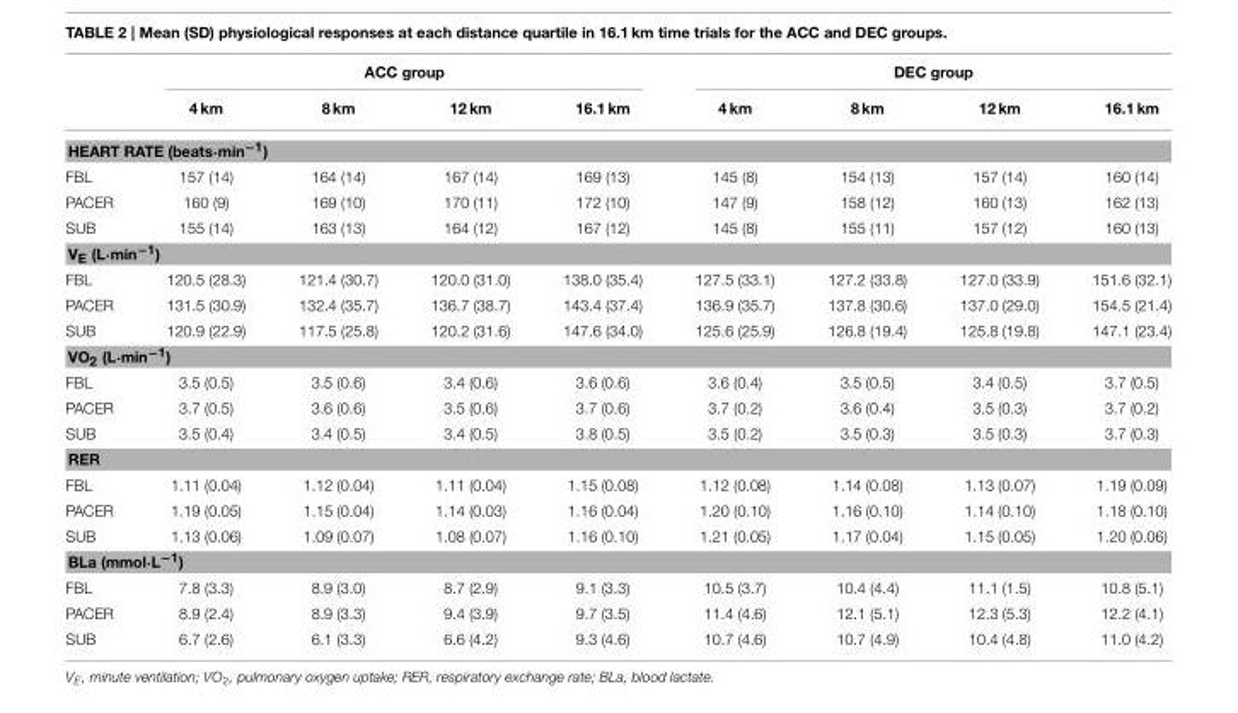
<table><thead><tr><td rowspan="2"></td><td colspan="4">ACC group</td><td colspan="4">DEC group</td></tr><tr><td>4 km</td><td>8 km</td><td>12 km</td><td>16.1 km</td><td>4 km</td><td>8 km</td><td>12 km</td><td>16.1 km</td></tr></thead><tbody><tr><td colspan="9">HEART RATE (beats·min<sup>−1</sup>)</td></tr><tr><td>FBL</td><td>157 (14)</td><td>164 (14)</td><td>167 (14)</td><td>169 (13)</td><td>145 (8)</td><td>154 (13)</td><td>157 (14)</td><td>160 (14)</td></tr><tr><td>PACER</td><td>160 (9)</td><td>169 (10)</td><td>170 (11)</td><td>172 (10)</td><td>147 (9)</td><td>158 (12)</td><td>160 (13)</td><td>162 (13)</td></tr><tr><td>SUB</td><td>155 (14)</td><td>163 (13)</td><td>164 (12)</td><td>167 (12)</td><td>145 (8)</td><td>155 (11)</td><td>157 (12)</td><td>160 (13)</td></tr><tr><td colspan="9">V<sub>E</sub> (L·min<sup>−1</sup>)</td></tr><tr><td>FBL</td><td>120.5 (28.3)</td><td>121.4 (30.7)</td><td>120.0 (31.0)</td><td>138.0 (35.4)</td><td>127.5 (33.1)</td><td>127.2 (33.8)</td><td>127.0 (33.9)</td><td>151.6 (32.1)</td></tr><tr><td>PACER</td><td>131.5 (30.9)</td><td>132.4 (35.7)</td><td>136.7 (38.7)</td><td>143.4 (37.4)</td><td>136.9 (35.7)</td><td>137.8 (30.6)</td><td>137.0 (29.0)</td><td>154.5 (21.4)</td></tr><tr><td>SUB</td><td>120.9 (22.9)</td><td>117.5 (25.8)</td><td>120.2 (31.6)</td><td>147.6 (34.0)</td><td>125.6 (25.9)</td><td>126.8 (19.4)</td><td>125.8 (19.8)</td><td>147.1 (23.4)</td></tr><tr><td colspan="9">VO<sub>2</sub> (L·min<sup>−1</sup>)</td></tr><tr><td>FBL</td><td>3.5 (0.5)</td><td>3.5 (0.6)</td><td>3.4 (0.6)</td><td>3.6 (0.6)</td><td>3.6 (0.4)</td><td>3.5 (0.5)</td><td>3.4 (0.5)</td><td>3.7 (0.5)</td></tr><tr><td>PACER</td><td>3.7 (0.5)</td><td>3.6 (0.6)</td><td>3.5 (0.6)</td><td>3.7 (0.6)</td><td>3.7 (0.2)</td><td>3.6 (0.4)</td><td>3.5 (0.3)</td><td>3.7 (0.2)</td></tr><tr><td>SUB</td><td>3.5 (0.4)</td><td>3.4 (0.5)</td><td>3.4 (0.5)</td><td>3.8 (0.5)</td><td>3.5 (0.2)</td><td>3.5 (0.3)</td><td>3.5 (0.3)</td><td>3.7 (0.3)</td></tr><tr><td colspan="9">RER</td></tr><tr><td>FBL</td><td>1.11 (0.04)</td><td>1.12 (0.04)</td><td>1.11 (0.04)</td><td>1.15 (0.08)</td><td>1.12 (0.08)</td><td>1.14 (0.08)</td><td>1.13 (0.07)</td><td>1.19 (0.09)</td></tr><tr><td>PACER</td><td>1.19 (0.05)</td><td>1.15 (0.04)</td><td>1.14 (0.03)</td><td>1.16 (0.04)</td><td>1.20 (0.10)</td><td>1.16 (0.10)</td><td>1.14 (0.10)</td><td>1.18 (0.10)</td></tr><tr><td>SUB</td><td>1.13 (0.06)</td><td>1.09 (0.07)</td><td>1.08 (0.07)</td><td>1.16 (0.10)</td><td>1.21 (0.05)</td><td>1.17 (0.04)</td><td>1.15 (0.05)</td><td>1.20 (0.06)</td></tr><tr><td colspan="9">BLa (mmol·L<sup>−1</sup>)</td></tr><tr><td>FBL</td><td>7.8 (3.3)</td><td>8.9 (3.0)</td><td>8.7 (2.9)</td><td>9.1 (3.3)</td><td>10.5 (3.7)</td><td>10.4 (4.4)</td><td>11.1 (1.5)</td><td>10.8 (5.1)</td></tr><tr><td>PACER</td><td>8.9 (2.4)</td><td>8.9 (3.3)</td><td>9.4 (3.9)</td><td>9.7 (3.5)</td><td>11.4 (4.6)</td><td>12.1 (5.1)</td><td>12.3 (5.3)</td><td>12.2 (4.1)</td></tr><tr><td>SUB</td><td>6.7 (2.6)</td><td>6.1 (3.3)</td><td>6.6 (4.2)</td><td>9.3 (4.6)</td><td>10.7 (4.6)</td><td>10.7 (4.9)</td><td>10.4 (4.8)</td><td>11.0 (4.2)</td></tr></tbody></table>